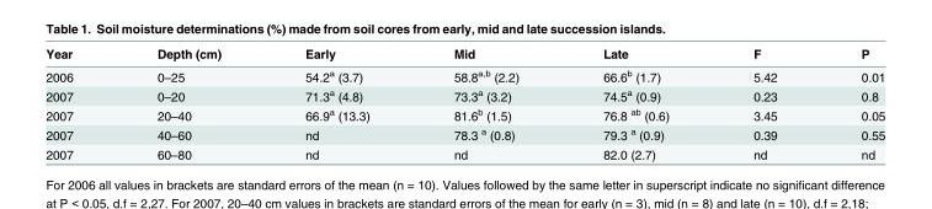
<table><thead><tr><td>Year</td><td>Depth (cm)</td><td>Early</td><td>Mid</td><td>Late</td><td>F</td><td>P</td></tr></thead><tbody><tr><td>2006</td><td>0–25</td><td>54.2<sup>a</sup> (3.7)</td><td>58.8<sup>a,b</sup> (2.2)</td><td>66.6<sup>b</sup> (1.7)</td><td>5.42</td><td>0.01</td></tr><tr><td>2007</td><td>0–20</td><td>71.3<sup>a</sup> (4.8)</td><td>73.3<sup>a</sup> (3.2)</td><td>74.5<sup>a</sup> (0.9)</td><td>0.23</td><td>0.8</td></tr><tr><td>2007</td><td>20–40</td><td>66.9<sup>a</sup> (13.3)</td><td>81.6<sup>b</sup> (1.5)</td><td>76.8 <sup>ab</sup> (0.6)</td><td>3.45</td><td>0.05</td></tr><tr><td>2007</td><td>40–60</td><td>nd</td><td>78.3 <sup>a</sup> (0.8)</td><td>79.3 <sup>a</sup> (0.9)</td><td>0.39</td><td>0.55</td></tr><tr><td>2007</td><td>60–80</td><td>nd</td><td>nd</td><td>82.0 (2.7)</td><td>nd</td><td>nd</td></tr></tbody></table>